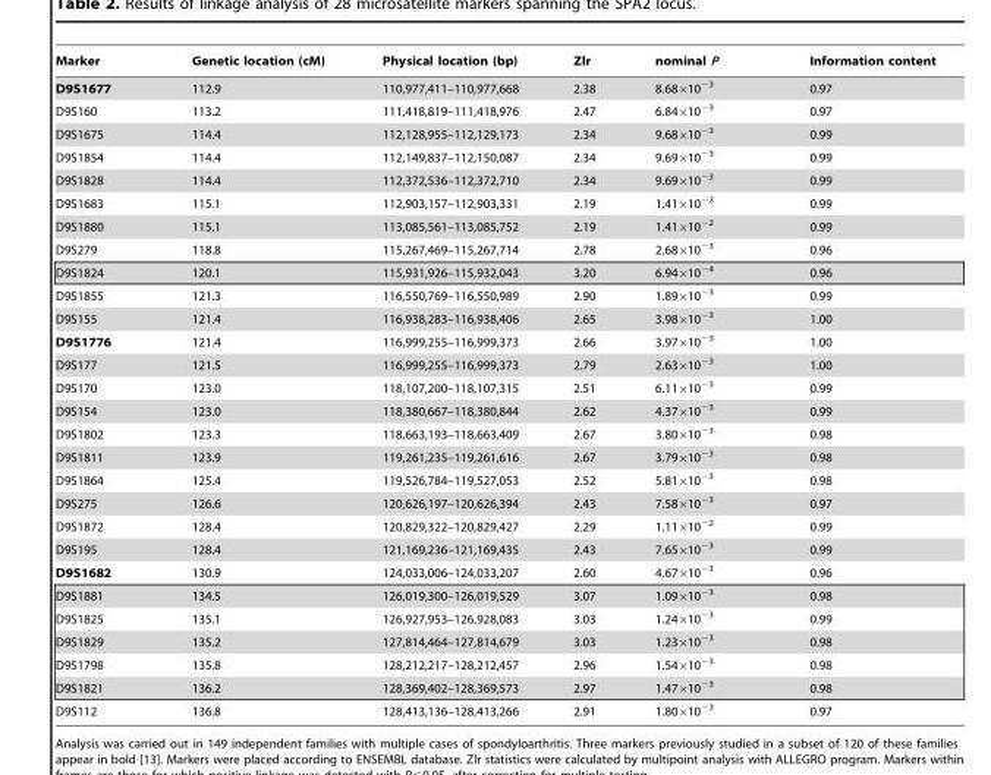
<table><thead><tr><td>Marker</td><td>Genetic location (cM)</td><td>Physical location (bp)</td><td>Zlr</td><td>nominal P</td><td>Information content</td></tr></thead><tbody><tr><td>D9S1677</td><td>112.9</td><td>110,977,411–110,977,668</td><td>2.38</td><td>8.68×10<sup>−3</sup></td><td>0.97</td></tr><tr><td>D9S160</td><td>113.2</td><td>111,418,819–111,418,976</td><td>2.47</td><td>6.84×10<sup>−3</sup></td><td>0.97</td></tr><tr><td>D9S1675</td><td>114.4</td><td>112,128,955–112,129,173</td><td>2.34</td><td>9.68×10<sup>−3</sup></td><td>0.99</td></tr><tr><td>D9S1854</td><td>114.4</td><td>112,149,837–112,150,087</td><td>2.34</td><td>9.69×10<sup>−3</sup></td><td>0.99</td></tr><tr><td>D9S1828</td><td>114.4</td><td>112,372,536–112,372,710</td><td>2.34</td><td>9.69×10<sup>−3</sup></td><td>0.99</td></tr><tr><td>D9S1683</td><td>115.1</td><td>112,903,157–112,903,331</td><td>2.19</td><td>1.41×10<sup>−2</sup></td><td>0.99</td></tr><tr><td>D9S1880</td><td>115.1</td><td>113,085,561–113,085,752</td><td>2.19</td><td>1.41×10<sup>−2</sup></td><td>0.99</td></tr><tr><td>D9S279</td><td>118.8</td><td>115,267,469–115,267,714</td><td>2.78</td><td>2.68×10<sup>−3</sup></td><td>0.96</td></tr><tr><td>D9S1824</td><td>120.1</td><td>115,931,926–115,932,043</td><td>3.20</td><td>6.94×10<sup>−4</sup></td><td>0.96</td></tr><tr><td>D9S1855</td><td>121.3</td><td>116,550,769–116,550,989</td><td>2.90</td><td>1.89×10<sup>−3</sup></td><td>0.99</td></tr><tr><td>D9S155</td><td>121.4</td><td>116,938,283–116,938,406</td><td>2.65</td><td>3.98×10<sup>−3</sup></td><td>1.00</td></tr><tr><td>D9S1776</td><td>121.4</td><td>116,999,255–116,999,373</td><td>2.66</td><td>3.97×10<sup>−3</sup></td><td>1.00</td></tr><tr><td>D9S177</td><td>121.5</td><td>116,999,255–116,999,373</td><td>2.79</td><td>2.63×10<sup>−3</sup></td><td>1.00</td></tr><tr><td>D9S170</td><td>123.0</td><td>118,107,200–118,107,315</td><td>2.51</td><td>6.11×10<sup>−3</sup></td><td>0.99</td></tr><tr><td>D9S154</td><td>123.0</td><td>118,380,667–118,380,844</td><td>2.62</td><td>4.37×10<sup>−3</sup></td><td>0.99</td></tr><tr><td>D9S1802</td><td>123.3</td><td>118,663,193–118,663,409</td><td>2.67</td><td>3.80×10<sup>−3</sup></td><td>0.98</td></tr><tr><td>D9S1811</td><td>123.9</td><td>119,261,235–119,261,616</td><td>2.67</td><td>3.79×10<sup>−3</sup></td><td>0.98</td></tr><tr><td>D9S1864</td><td>125.4</td><td>119,526,784–119,527,053</td><td>2.52</td><td>5.81×10<sup>−3</sup></td><td>0.98</td></tr><tr><td>D9S275</td><td>126.6</td><td>120,626,197–120,626,394</td><td>2.43</td><td>7.58×10<sup>−3</sup></td><td>0.97</td></tr><tr><td>D9S1872</td><td>128.4</td><td>120,829,322–120,829,427</td><td>2.29</td><td>1.11×10<sup>−2</sup></td><td>0.99</td></tr><tr><td>D9S195</td><td>128.4</td><td>121,169,236–121,169,435</td><td>2.43</td><td>7.65×10<sup>−3</sup></td><td>0.99</td></tr><tr><td>D9S1682</td><td>130.9</td><td>124,033,006–124,033,207</td><td>2.60</td><td>4.67×10<sup>−3</sup></td><td>0.96</td></tr><tr><td>D9S1881</td><td>134.5</td><td>126,019,300–126,019,529</td><td>3.07</td><td>1.09×10<sup>−3</sup></td><td>0.98</td></tr><tr><td>D9S1825</td><td>135.1</td><td>126,927,953–126,928,083</td><td>3.03</td><td>1.24×10<sup>−3</sup></td><td>0.99</td></tr><tr><td>D9S1829</td><td>135.2</td><td>127,814,464–127,814,679</td><td>3.03</td><td>1.23×10<sup>−3</sup></td><td>0.98</td></tr><tr><td>D9S1798</td><td>135.8</td><td>128,212,217–128,212,457</td><td>2.96</td><td>1.54×10<sup>−3</sup></td><td>0.98</td></tr><tr><td>D9S1821</td><td>136.2</td><td>128,369,402–128,369,573</td><td>2.97</td><td>1.47×10<sup>−3</sup></td><td>0.98</td></tr><tr><td>D9S112</td><td>136.8</td><td>128,413,136–128,413,266</td><td>2.91</td><td>1.80×10<sup>−3</sup></td><td>0.97</td></tr></tbody></table>